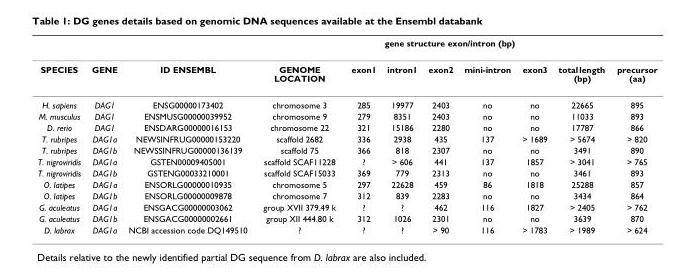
<table><thead><tr><td rowspan="2">SPECIES</td><td rowspan="2">GENE</td><td rowspan="2">ID ENSEMBL</td><td rowspan="2">GENOME LOCATION</td><td colspan="5">gene structure exon/intron (bp)</td><td rowspan="2">total length (bp)</td><td rowspan="2">precursor (aa)</td></tr><tr><td>exon1</td><td>intron1</td><td>exon2</td><td>mini-intron</td><td>exon3</td></tr></thead><tbody><tr><td>H. sapiens</td><td>DAG1</td><td>ENSG00000173402</td><td>chromosome 3</td><td>285</td><td>19977</td><td>2403</td><td>no</td><td>no</td><td>22665</td><td>895</td></tr><tr><td>M. musculus</td><td>DAG1</td><td>ENSMUSG00000039952</td><td>chromosome 9</td><td>279</td><td>8351</td><td>2403</td><td>no</td><td>no</td><td>11033</td><td>893</td></tr><tr><td>D. rerio</td><td>DAG1</td><td>ENSDARG00000016153</td><td>chromosome 22</td><td>321</td><td>15186</td><td>2280</td><td>no</td><td>no</td><td>17787</td><td>866</td></tr><tr><td>T. rubripes</td><td>DAG1a</td><td>NEWSINFRUG00000153220</td><td>scaffold 2682</td><td>336</td><td>2938</td><td>435</td><td>137</td><td>&gt; 1689</td><td>&gt; 5674</td><td>&gt; 820</td></tr><tr><td>T. rubripes</td><td>DAG1b</td><td>NEWSSINFRUG00000136139</td><td>scaffold 75</td><td>366</td><td>818</td><td>2307</td><td>no</td><td>no</td><td>3491</td><td>890</td></tr><tr><td>T. nigroviridis</td><td>DAG1a</td><td>GSTEN00009405001</td><td>scaffold SCAF11228</td><td>?</td><td>&gt; 606</td><td>441</td><td>137</td><td>1857</td><td>&gt; 3041</td><td>&gt; 765</td></tr><tr><td>T. nigroviridis</td><td>DAG1b</td><td>GSTENG00033210001</td><td>scaffold SCAF15033</td><td>369</td><td>779</td><td>2313</td><td>no</td><td>no</td><td>3461</td><td>893</td></tr><tr><td>O. latipes</td><td>DAG1a</td><td>ENSORLG00000010935</td><td>chromosome 5</td><td>297</td><td>22628</td><td>459</td><td>86</td><td>1818</td><td>25288</td><td>857</td></tr><tr><td>O. latipes</td><td>DAG1b</td><td>ENSORLG00000009878</td><td>chromosome 7</td><td>312</td><td>839</td><td>2283</td><td>no</td><td>no</td><td>3434</td><td>864</td></tr><tr><td>G. aculeatus</td><td>DAG1a</td><td>ENSGACG00000003062</td><td>group XVII 379.49 k</td><td>?</td><td>?</td><td>462</td><td>116</td><td>1827</td><td>&gt; 2405</td><td>&gt; 762</td></tr><tr><td>G. aculeatus</td><td>DAG1b</td><td>ENSGACG00000002661</td><td>group XII 444.80 k</td><td>312</td><td>1026</td><td>2301</td><td>no</td><td>no</td><td>3639</td><td>870</td></tr><tr><td>D. labrax</td><td>DAG1a</td><td>NCBI accession code DQ149510</td><td>?</td><td>?</td><td>?</td><td>&gt; 90</td><td>116</td><td>&gt; 1783</td><td>&gt; 1989</td><td>&gt; 624</td></tr></tbody></table>